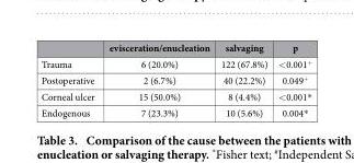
<table><thead><tr><td></td><td>evisceration/enucleation</td><td>salvaging</td><td>p</td></tr></thead><tbody><tr><td>Trauma</td><td>6 (20.0%)</td><td>122 (67.8%)</td><td>&lt; 0.001+</td></tr><tr><td>Postoperative</td><td>2 (6.7%)</td><td>40 (22.2%)</td><td>0.049+</td></tr><tr><td>Corneal ulcer</td><td>15 (50.0%)</td><td>8 (4.4%)</td><td>&lt; 0.001*</td></tr><tr><td>Endogenous</td><td>7 (23.3%)</td><td>10 (5.6%)</td><td>0.004*</td></tr></tbody></table>